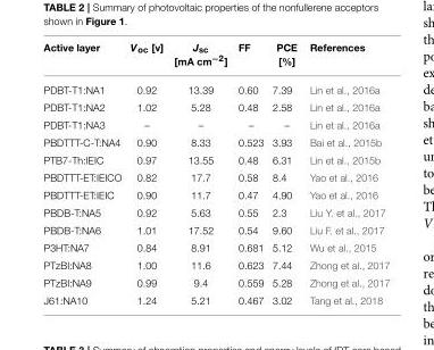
<table><thead><tr><td>Active layer</td><td>V<sub>oc</sub> [v]</td><td>J<sub>sc</sub> [mA cm<sup>−2</sup>]</td><td>FF</td><td>PCE [%]</td><td>References</td></tr></thead><tbody><tr><td>PDBT-T1:NA1</td><td>0.92</td><td>13.39</td><td>0.60</td><td>7.39</td><td>Lin et al., 2016a</td></tr><tr><td>PDBT-T1:NA2</td><td>1.02</td><td>5.28</td><td>0.48</td><td>2.58</td><td>Lin et al., 2016a</td></tr><tr><td>PDBT-T1:NA3</td><td>–</td><td>–</td><td>–</td><td>–</td><td>Lin et al., 2016a</td></tr><tr><td>PBDTTT-C-T:NA4</td><td>0.90</td><td>8.33</td><td>0.523</td><td>3.93</td><td>Bai et al., 2015b</td></tr><tr><td>PTB7-Th:IEIC</td><td>0.97</td><td>13.55</td><td>0.48</td><td>6.31</td><td>Lin et al., 2015b</td></tr><tr><td>PBDTTT-ET:IEICO</td><td>0.82</td><td>17.7</td><td>0.58</td><td>8.4</td><td>Yao et al., 2016</td></tr><tr><td>PBDTTT-ET:IEIC</td><td>0.90</td><td>11.7</td><td>0.47</td><td>4.90</td><td>Yao et al., 2016</td></tr><tr><td>PBDB-T:NA5</td><td>0.92</td><td>5.63</td><td>0.55</td><td>2.3</td><td>Liu Y. et al., 2017</td></tr><tr><td>PBDB-T:NA6</td><td>1.01</td><td>17.52</td><td>0.54</td><td>9.60</td><td>Liu F. et al., 2017</td></tr><tr><td>P3HT:NA7</td><td>0.84</td><td>8.91</td><td>0.681</td><td>5.12</td><td>Wu et al., 2015</td></tr><tr><td>PTzBI:NA8</td><td>1.00</td><td>11.6</td><td>0.623</td><td>7.44</td><td>Zhong et al., 2017</td></tr><tr><td>PTzBI:NA9</td><td>0.99</td><td>9.4</td><td>0.559</td><td>5.28</td><td>Zhong et al., 2017</td></tr><tr><td>J61:NA10</td><td>1.24</td><td>5.21</td><td>0.467</td><td>3.02</td><td>Tang et al., 2018</td></tr></tbody></table>